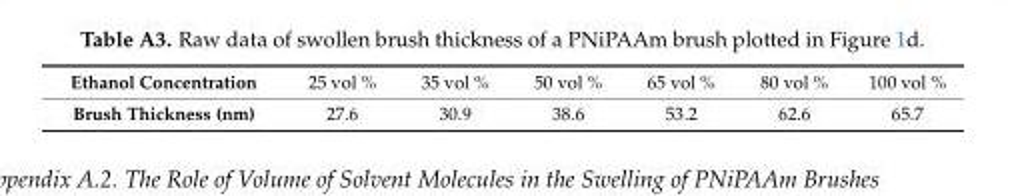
<table><tbody><tr><td>Ethanol Concentration</td><td>25 vol %</td><td>35 vol %</td><td>50 vol %</td><td>65 vol %</td><td>80 vol %</td><td>100 vol %</td></tr><tr><td>Brush Thickness (nm)</td><td>27.6</td><td>30.9</td><td>38.6</td><td>53.2</td><td>62.6</td><td>65.7</td></tr></tbody></table>